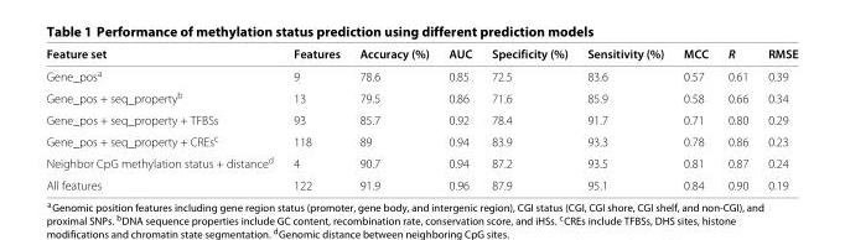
<table><thead><tr><td>Feature set</td><td>Features</td><td>Accuracy (%)</td><td>AUC</td><td>Specificity (%)</td><td>Sensitivity (%)</td><td>MCC</td><td>R</td><td>RMSE</td></tr></thead><tbody><tr><td>Gene_pos<sup>a</sup></td><td>9</td><td>78.6</td><td>0.85</td><td>72.5</td><td>83.6</td><td>0.57</td><td>0.61</td><td>0.39</td></tr><tr><td>Gene_pos + seq_property<sup>b</sup></td><td>13</td><td>79.5</td><td>0.86</td><td>71.6</td><td>85.9</td><td>0.58</td><td>0.66</td><td>0.34</td></tr><tr><td>Gene_pos + seq_property + TFBSs</td><td>93</td><td>85.7</td><td>0.92</td><td>78.4</td><td>91.7</td><td>0.71</td><td>0.80</td><td>0.29</td></tr><tr><td>Gene_pos + seq_property + CREs<sup>c</sup></td><td>118</td><td>89</td><td>0.94</td><td>83.9</td><td>93.3</td><td>0.78</td><td>0.86</td><td>0.23</td></tr><tr><td>Neighbor CpG methylation status + distance<sup>d</sup></td><td>4</td><td>90.7</td><td>0.94</td><td>87.2</td><td>93.5</td><td>0.81</td><td>0.87</td><td>0.24</td></tr><tr><td>All features</td><td>122</td><td>91.9</td><td>0.96</td><td>87.9</td><td>95.1</td><td>0.84</td><td>0.90</td><td>0.19</td></tr></tbody></table>